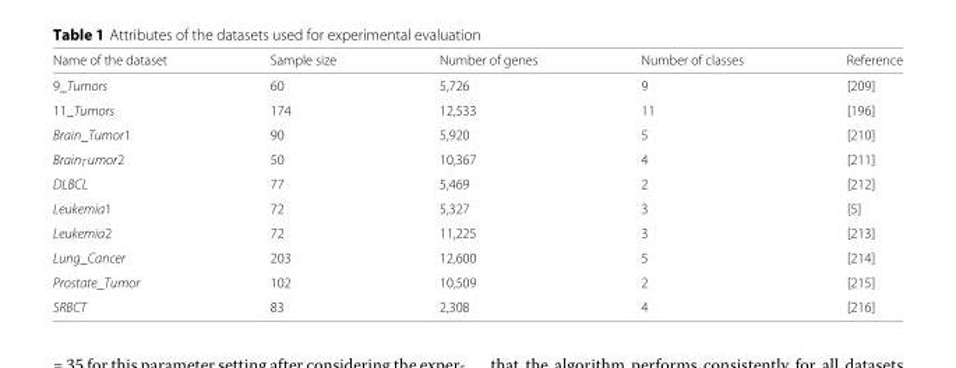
<table><thead><tr><td>Name of the dataset</td><td>Sample size</td><td>Number of genes</td><td>Number of classes</td><td>Reference</td></tr></thead><tbody><tr><td>9_Tumors</td><td>60</td><td>5,726</td><td>9</td><td>[209]</td></tr><tr><td>11_Tumors</td><td>174</td><td>12,533</td><td>11</td><td>[196]</td></tr><tr><td>Brain_Tumor1</td><td>90</td><td>5,920</td><td>5</td><td>[210]</td></tr><tr><td>Brain<sub>T</sub>umor2</td><td>50</td><td>10,367</td><td>4</td><td>[211]</td></tr><tr><td>DLBCL</td><td>77</td><td>5,469</td><td>2</td><td>[212]</td></tr><tr><td>Leukemia1</td><td>72</td><td>5,327</td><td>3</td><td>[5]</td></tr><tr><td>Leukemia2</td><td>72</td><td>11,225</td><td>3</td><td>[213]</td></tr><tr><td>Lung_Cancer</td><td>203</td><td>12,600</td><td>5</td><td>[214]</td></tr><tr><td>Prostate_Tumor</td><td>102</td><td>10,509</td><td>2</td><td>[215]</td></tr><tr><td>SRBCT</td><td>83</td><td>2,308</td><td>4</td><td>[216]</td></tr></tbody></table>